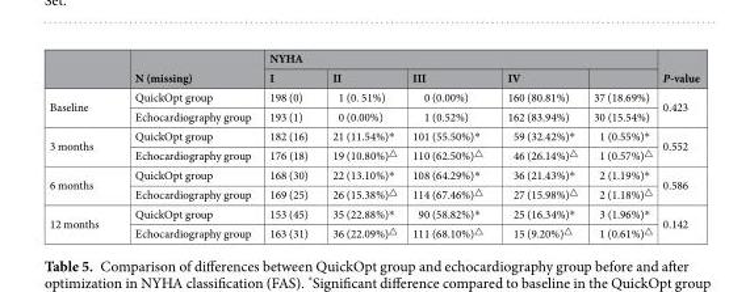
<table><thead><tr><td rowspan="2"></td><td rowspan="2">N (missing)</td><td colspan="5">NYHA</td><td rowspan="2">P-value</td></tr><tr><td>I</td><td>II</td><td>III</td><td>IV</td><td></td></tr></thead><tbody><tr><td rowspan="2">Baseline</td><td>QuickOpt group</td><td>198 (0)</td><td>1 (0. 51%)</td><td>0 (0.00%)</td><td>160 (80.81%)</td><td>37 (18.69%)</td><td rowspan="2">0.423</td></tr><tr><td>Echocardiography group</td><td>193 (1)</td><td>0 (0.00%)</td><td>1 (0.52%)</td><td>162 (83.94%)</td><td>30 (15.54%)</td></tr><tr><td rowspan="2">3 months</td><td>QuickOpt group</td><td>182 (16)</td><td>21 (11.54%)*</td><td>101 (55.50%)*</td><td>59 (32.42%)*</td><td>1 (0.55%)*</td><td rowspan="2">0.552</td></tr><tr><td>Echocardiography group</td><td>176 (18)</td><td>19 (10.80%)<sup>△</sup></td><td>110 (62.50%)<sup>△</sup></td><td>46 (26.14%)<sup>△</sup></td><td>1 (0.57%)<sup>△</sup></td></tr><tr><td rowspan="2">6 months</td><td>QuickOpt group</td><td>168 (30)</td><td>22 (13.10%)*</td><td>108 (64.29%)*</td><td>36 (21.43%)*</td><td>2 (1.19%)*</td><td rowspan="2">0.586</td></tr><tr><td>Echocardiography group</td><td>169 (25)</td><td>26 (15.38%)<sup>△</sup></td><td>114 (67.46%)<sup>△</sup></td><td>27 (15.98%)<sup>△</sup></td><td>2 (1.18%)<sup>△</sup></td></tr><tr><td rowspan="2">12 months</td><td>QuickOpt group</td><td>153 (45)</td><td>35 (22.88%)*</td><td>90 (58.82%)*</td><td>25 (16.34%)*</td><td>3 (1.96%)*</td><td rowspan="2">0.142</td></tr><tr><td>Echocardiography group</td><td>163 (31)</td><td>36 (22.09%)<sup>△</sup></td><td>111 (68.10%)<sup>△</sup></td><td>15 (9.20%)<sup>△</sup></td><td>1 (0.61%)<sup>△</sup></td></tr></tbody></table>